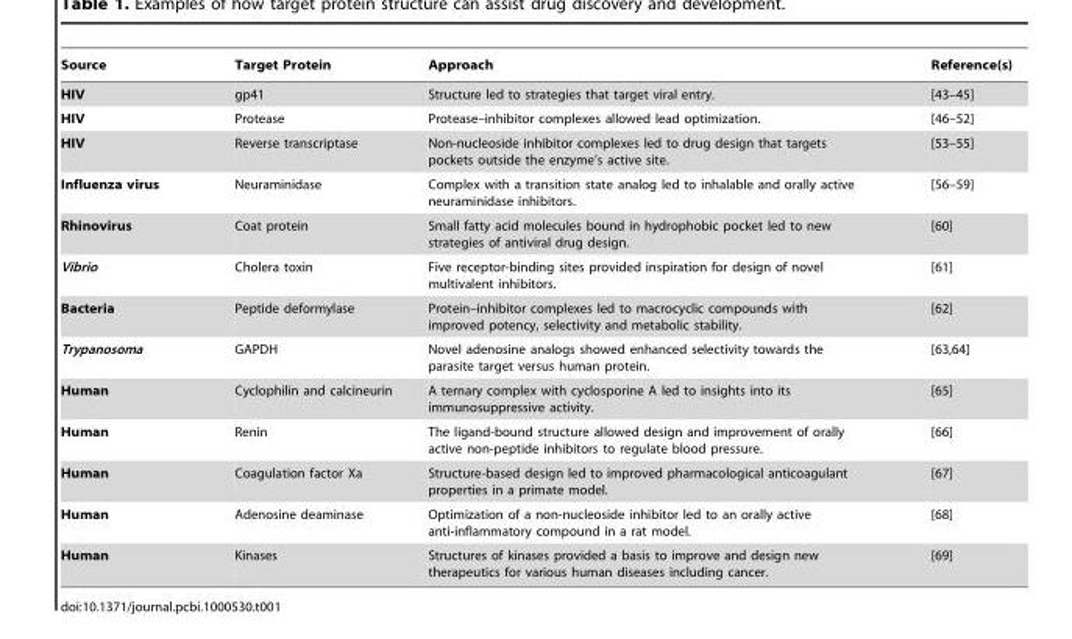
<table><thead><tr><td>Source</td><td>Target Protein</td><td>Approach</td><td>Reference(s)</td></tr></thead><tbody><tr><td>HIV</td><td>gp41</td><td>Structure led to strategies that target viral entry.</td><td>[43–45]</td></tr><tr><td>HIV</td><td>Protease</td><td>Protease–inhibitor complexes allowed lead optimization.</td><td>[46–52]</td></tr><tr><td>HIV</td><td>Reverse transcriptase</td><td>Non-nucleoside inhibitor complexes led to drug design that targets pockets outside the enzyme’s active site.</td><td>[53–55]</td></tr><tr><td>Influenza virus</td><td>Neuraminidase</td><td>Complex with a transition state analog led to inhalable and orally active neuraminidase inhibitors.</td><td>[56–59]</td></tr><tr><td>Rhinovirus</td><td>Coat protein</td><td>Small fatty acid molecules bound in hydrophobic pocket led to new strategies of antiviral drug design.</td><td>[60]</td></tr><tr><td>Vibrio</td><td>Cholera toxin</td><td>Five receptor-binding sites provided inspiration for design of novel multivalent inhibitors.</td><td>[61]</td></tr><tr><td>Bacteria</td><td>Peptide deformylase</td><td>Protein–inhibitor complexes led to macrocyclic compounds with improved potency, selectivity and metabolic stability.</td><td>[62]</td></tr><tr><td>Trypanosoma</td><td>GAPDH</td><td>Novel adenosine analogs showed enhanced selectivity towards the parasite target versus human protein.</td><td>[63,64]</td></tr><tr><td>Human</td><td>Cyclophilin and calcineurin</td><td>A ternary complex with cyclosporine A led to insights into its immunosuppressive activity.</td><td>[65]</td></tr><tr><td>Human</td><td>Renin</td><td>The ligand-bound structure allowed design and improvement of orally active non-peptide inhibitors to regulate blood pressure.</td><td>[66]</td></tr><tr><td>Human</td><td>Coagulation factor Xa</td><td>Structure-based design led to improved pharmacological anticoagulant properties in a primate model.</td><td>[67]</td></tr><tr><td>Human</td><td>Adenosine deaminase</td><td>Optimization of a non-nucleoside inhibitor led to an orally active anti-inflammatory compound in a rat model.</td><td>[68]</td></tr><tr><td>Human</td><td>Kinases</td><td>Structures of kinases provided a basis to improve and design new therapeutics for various human diseases including cancer.</td><td>[69]</td></tr></tbody></table>